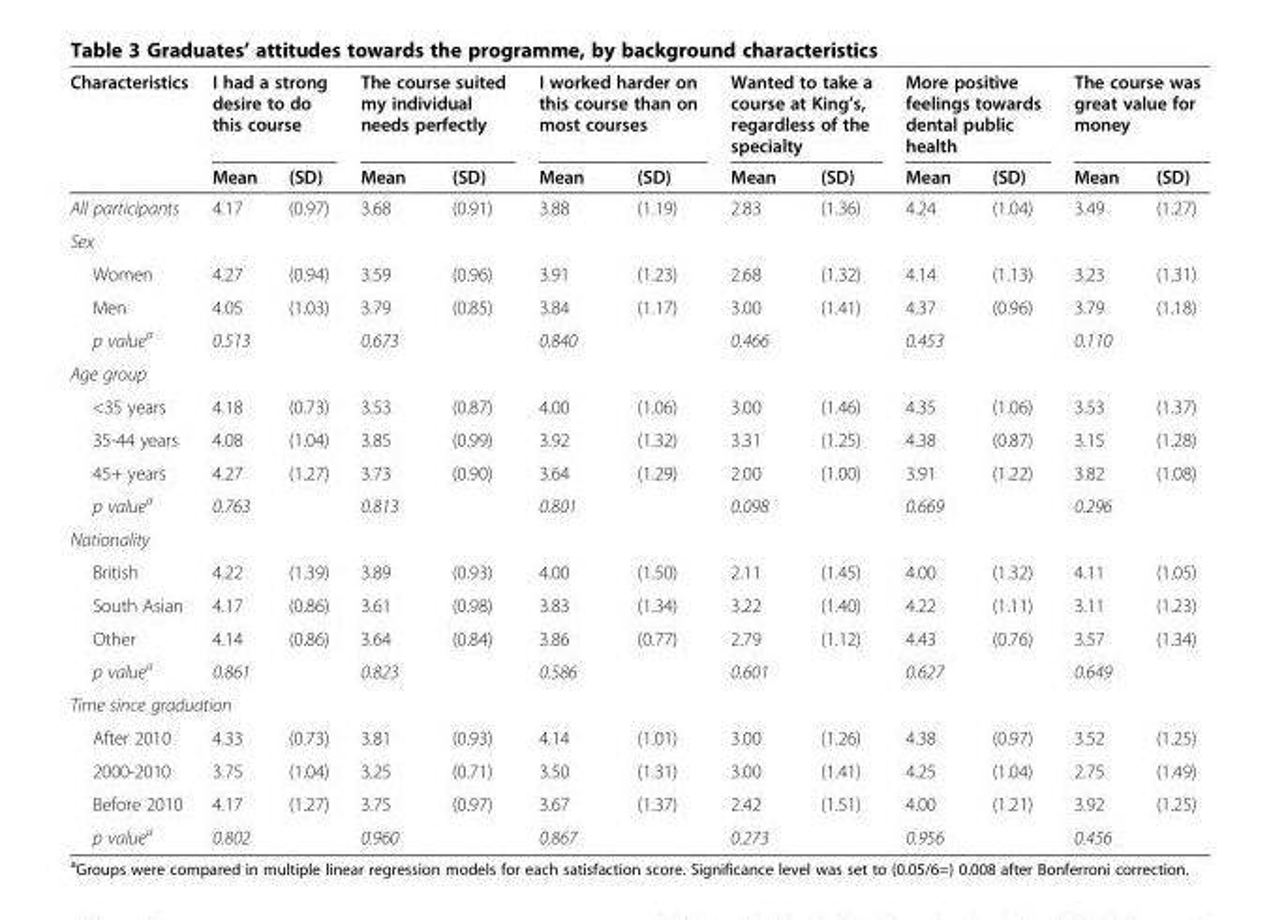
<table><thead><tr><td rowspan="2">Characteristics</td><td colspan="2">I had a strong desire to do this course</td><td colspan="2">The course suited my individual needs perfectly</td><td colspan="2">I worked harder on this course than on most courses</td><td colspan="2">Wanted to take a course at King’s, regardless of the specialty</td><td colspan="2">More positive feelings towards dental public health</td><td colspan="2">The course was great value for money</td></tr><tr><td>Mean</td><td>(SD)</td><td>Mean</td><td>(SD)</td><td>Mean</td><td>(SD)</td><td>Mean</td><td>(SD)</td><td>Mean</td><td>(SD)</td><td>Mean</td><td>(SD)</td></tr></thead><tbody><tr><td>All participants</td><td>4.17</td><td>(0.97)</td><td>3.68</td><td>(0.91)</td><td>3.88</td><td>(1.19)</td><td>2.83</td><td>(1.36)</td><td>4.24</td><td>(1.04)</td><td>3.49</td><td>(1.27)</td></tr><tr><td colspan="13">Sex</td></tr><tr><td>Women</td><td>4.27</td><td>(0.94)</td><td>3.59</td><td>(0.96)</td><td>3.91</td><td>(1.23)</td><td>2.68</td><td>(1.32)</td><td>4.14</td><td>(1.13)</td><td>3.23</td><td>(1.31)</td></tr><tr><td>Men</td><td>4.05</td><td>(1.03)</td><td>3.79</td><td>(0.85)</td><td>3.84</td><td>(1.17)</td><td>3.00</td><td>(1.41)</td><td>4.37</td><td>(0.96)</td><td>3.79</td><td>(1.18)</td></tr><tr><td>p value<sup>a</sup></td><td colspan="2">0.513</td><td colspan="2">0.673</td><td colspan="2">0.840</td><td colspan="2">0.466</td><td colspan="2">0.453</td><td colspan="2">0.110</td></tr><tr><td colspan="13">Age group</td></tr><tr><td>&lt;35 years</td><td>4.18</td><td>(0.73)</td><td>3.53</td><td>(0.87)</td><td>4.00</td><td>(1.06)</td><td>3.00</td><td>(1.46)</td><td>4.35</td><td>(1.06)</td><td>3.53</td><td>(1.37)</td></tr><tr><td>35-44 years</td><td>4.08</td><td>(1.04)</td><td>3.85</td><td>(0.99)</td><td>3.92</td><td>(1.32)</td><td>3.31</td><td>(1.25)</td><td>4.38</td><td>(0.87)</td><td>3.15</td><td>(1.28)</td></tr><tr><td>45+ years</td><td>4.27</td><td>(1.27)</td><td>3.73</td><td>(0.90)</td><td>3.64</td><td>(1.29)</td><td>2.00</td><td>(1.00)</td><td>3.91</td><td>(1.22)</td><td>3.82</td><td>(1.08)</td></tr><tr><td>p value<sup>a</sup></td><td colspan="2">0.763</td><td colspan="2">0.813</td><td colspan="2">0.801</td><td colspan="2">0.098</td><td colspan="2">0.669</td><td colspan="2">0.296</td></tr><tr><td colspan="13">Nationality</td></tr><tr><td>British</td><td>4.22</td><td>(1.39)</td><td>3.89</td><td>(0.93)</td><td>4.00</td><td>(1.50)</td><td>2.11</td><td>(1.45)</td><td>4.00</td><td>(1.32)</td><td>4.11</td><td>(1.05)</td></tr><tr><td>South Asian</td><td>4.17</td><td>(0.86)</td><td>3.61</td><td>(0.98)</td><td>3.83</td><td>(1.34)</td><td>3.22</td><td>(1.40)</td><td>4.22</td><td>(1.11)</td><td>3.11</td><td>(1.23)</td></tr><tr><td>Other</td><td>4.14</td><td>(0.86)</td><td>3.64</td><td>(0.84)</td><td>3.86</td><td>(0.77)</td><td>2.79</td><td>(1.12)</td><td>4.43</td><td>(0.76)</td><td>3.57</td><td>(1.34)</td></tr><tr><td>p value<sup>a</sup></td><td colspan="2">0.861</td><td colspan="2">0.823</td><td colspan="2">0.586</td><td colspan="2">0.601</td><td colspan="2">0.627</td><td colspan="2">0.649</td></tr><tr><td colspan="13">Time since graduation</td></tr><tr><td>After 2010</td><td>4.33</td><td>(0.73)</td><td>3.81</td><td>(0.93)</td><td>4.14</td><td>(1.01)</td><td>3.00</td><td>(1.26)</td><td>4.38</td><td>(0.97)</td><td>3.52</td><td>(1.25)</td></tr><tr><td>2000-2010</td><td>3.75</td><td>(1.04)</td><td>3.25</td><td>(0.71)</td><td>3.50</td><td>(1.31)</td><td>3.00</td><td>(1.41)</td><td>4.25</td><td>(1.04)</td><td>2.75</td><td>(1.49)</td></tr><tr><td>Before 2010</td><td>4.17</td><td>(1.27)</td><td>3.75</td><td>(0.97)</td><td>3.67</td><td>(1.37)</td><td>2.42</td><td>(1.51)</td><td>4.00</td><td>(1.21)</td><td>3.92</td><td>(1.25)</td></tr><tr><td>p value<sup>a</sup></td><td colspan="2">0.802</td><td colspan="2">0.960</td><td colspan="2">0.867</td><td colspan="2">0.273</td><td colspan="2">0.956</td><td colspan="2">0.456</td></tr></tbody></table>